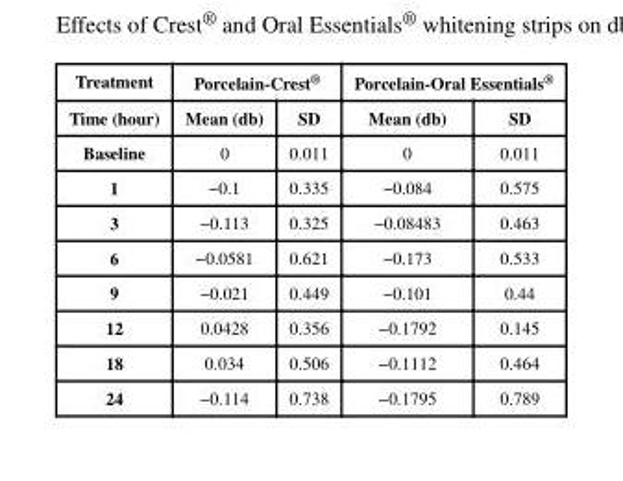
<table><thead><tr><td rowspan="2">Treatment Time (hour)</td><td colspan="2">Porcelain-Crest<sup>®</sup></td><td colspan="2">Porcelain-Oral Essentials<sup>®</sup></td></tr><tr><td>Mean (db)</td><td>SD</td><td>Mean (db)</td><td>SD</td></tr></thead><tbody><tr><td>Baseline</td><td>0</td><td>0.011</td><td>0</td><td>0.011</td></tr><tr><td>1</td><td>−0.1</td><td>0.335</td><td>−0.084</td><td>0.575</td></tr><tr><td>3</td><td>−0.113</td><td>0.325</td><td>−0.08483</td><td>0.463</td></tr><tr><td>6</td><td>−0.0581</td><td>0.621</td><td>−0.173</td><td>0.533</td></tr><tr><td>9</td><td>−0.021</td><td>0.449</td><td>−0.101</td><td>0.44</td></tr><tr><td>12</td><td>0.0428</td><td>0.356</td><td>−0.1792</td><td>0.145</td></tr><tr><td>18</td><td>0.034</td><td>0.506</td><td>−0.1112</td><td>0.464</td></tr><tr><td>24</td><td>−0.114</td><td>0.738</td><td>−0.1795</td><td>0.789</td></tr></tbody></table>